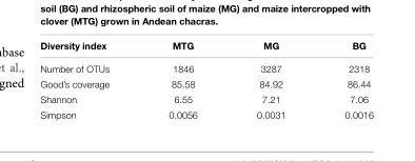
<table><thead><tr><td>Diversity index</td><td>MTG</td><td>MG</td><td>BG</td></tr></thead><tbody><tr><td>Number of OTUs</td><td>1846</td><td>3287</td><td>2318</td></tr><tr><td>Good’s coverage</td><td>85.58</td><td>84.92</td><td>86.44</td></tr><tr><td>Shannon</td><td>6.55</td><td>7.21</td><td>7.06</td></tr><tr><td>Simpson</td><td>0.0056</td><td>0.0031</td><td>0.0016</td></tr></tbody></table>